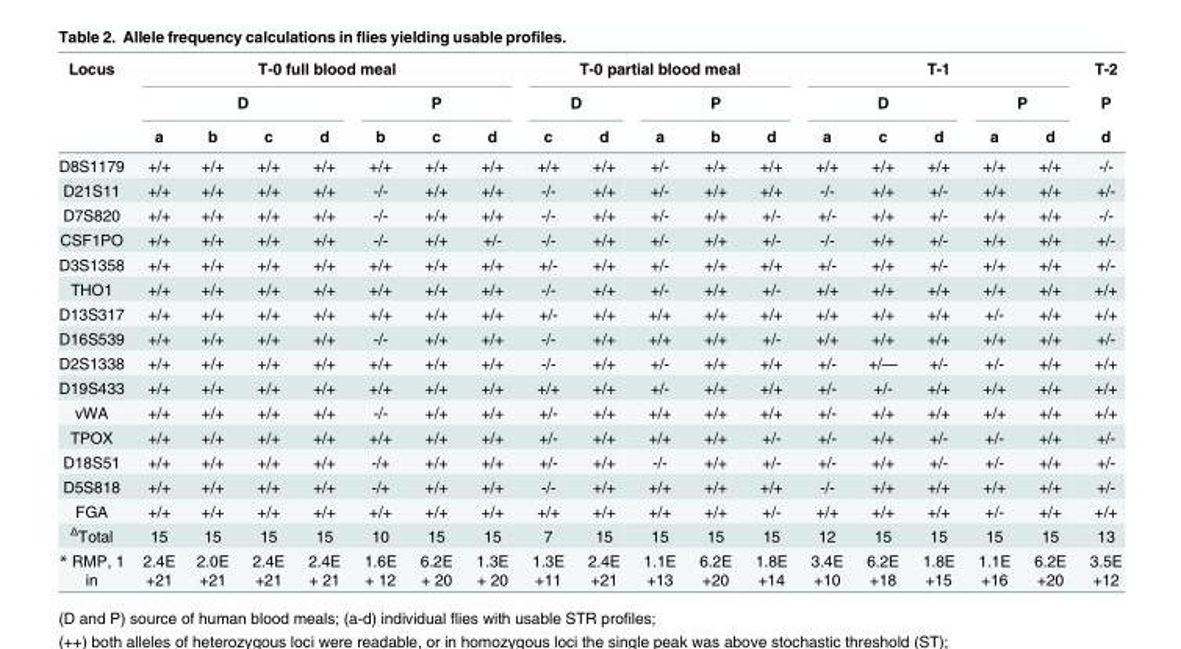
<table><thead><tr><td rowspan="3">Locus</td><td colspan="7">T-0 full blood meal</td><td colspan="5">T-0 partial blood meal</td><td colspan="5">T-1</td><td rowspan="3">T-2 P d</td></tr><tr><td colspan="4">D</td><td colspan="3">P</td><td colspan="2">D</td><td colspan="3">P</td><td colspan="3">D</td><td colspan="2">P</td></tr><tr><td>a</td><td>b</td><td>c</td><td>d</td><td>b</td><td>c</td><td>d</td><td>c</td><td>d</td><td>a</td><td>b</td><td>d</td><td>a</td><td>c</td><td>d</td><td>a</td><td>d</td></tr></thead><tbody><tr><td>D8S1179</td><td>+/+</td><td>+/+</td><td>+/+</td><td>+/+</td><td>+/+</td><td>+/+</td><td>+/+</td><td>+/+</td><td>+/+</td><td>+/-</td><td>+/+</td><td>+/+</td><td>+/+</td><td>+/+</td><td>+/+</td><td>+/+</td><td>+/+</td><td>-/-</td></tr><tr><td>D21S11</td><td>+/+</td><td>+/+</td><td>+/+</td><td>+/+</td><td>-/-</td><td>+/+</td><td>+/+</td><td>-/-</td><td>+/+</td><td>+/-</td><td>+/+</td><td>+/+</td><td>-/-</td><td>+/+</td><td>+/-</td><td>+/+</td><td>+/+</td><td>+/-</td></tr><tr><td>D7S820</td><td>+/+</td><td>+/+</td><td>+/+</td><td>+/+</td><td>-/-</td><td>+/+</td><td>+/+</td><td>-/-</td><td>+/+</td><td>+/-</td><td>+/+</td><td>+/-</td><td>+/-</td><td>+/+</td><td>+/-</td><td>+/+</td><td>+/+</td><td>-/-</td></tr><tr><td>CSF1PO</td><td>+/+</td><td>+/+</td><td>+/+</td><td>+/+</td><td>-/-</td><td>+/+</td><td>+/-</td><td>-/-</td><td>+/+</td><td>+/-</td><td>+/+</td><td>+/-</td><td>-/-</td><td>+/+</td><td>+/-</td><td>+/+</td><td>+/+</td><td>+/-</td></tr><tr><td>D3S1358</td><td>+/+</td><td>+/+</td><td>+/+</td><td>+/+</td><td>+/+</td><td>+/+</td><td>+/+</td><td>+/-</td><td>+/+</td><td>+/-</td><td>+/+</td><td>+/+</td><td>+/-</td><td>+/+</td><td>+/-</td><td>+/+</td><td>+/+</td><td>+/-</td></tr><tr><td>THO1</td><td>+/+</td><td>+/+</td><td>+/+</td><td>+/+</td><td>+/+</td><td>+/+</td><td>+/+</td><td>-/-</td><td>+/+</td><td>+/-</td><td>+/+</td><td>+/-</td><td>+/+</td><td>+/+</td><td>+/+</td><td>+/+</td><td>+/+</td><td>+/+</td></tr><tr><td>D13S317</td><td>+/+</td><td>+/+</td><td>+/+</td><td>+/+</td><td>+/+</td><td>+/+</td><td>+/+</td><td>+/-</td><td>+/+</td><td>+/+</td><td>+/+</td><td>+/+</td><td>+/+</td><td>+/+</td><td>+/+</td><td>+/-</td><td>+/+</td><td>+/+</td></tr><tr><td>D16S539</td><td>+/+</td><td>+/+</td><td>+/+</td><td>+/+</td><td>-/-</td><td>+/+</td><td>+/+</td><td>-/-</td><td>+/+</td><td>+/+</td><td>+/+</td><td>+/-</td><td>+/+</td><td>+/+</td><td>+/+</td><td>+/+</td><td>+/+</td><td>+/-</td></tr><tr><td>D2S1338</td><td>+/+</td><td>+/+</td><td>+/+</td><td>+/+</td><td>+/+</td><td>+/+</td><td>+/+</td><td>-/-</td><td>+/+</td><td>+/-</td><td>+/+</td><td>+/+</td><td>+/-</td><td>+/—</td><td>+/-</td><td>+/-</td><td>+/+</td><td>+/+</td></tr><tr><td>D19S433</td><td>+/+</td><td>+/+</td><td>+/+</td><td>+/+</td><td>+/+</td><td>+/+</td><td>+/+</td><td>+/+</td><td>+/+</td><td>+/-</td><td>+/+</td><td>+/+</td><td>+/-</td><td>+/-</td><td>+/+</td><td>+/+</td><td>+/+</td><td>+/+</td></tr><tr><td>vWA</td><td>+/+</td><td>+/+</td><td>+/+</td><td>+/+</td><td>-/-</td><td>+/+</td><td>+/+</td><td>+/-</td><td>+/+</td><td>+/+</td><td>+/+</td><td>+/+</td><td>+/-</td><td>+/+</td><td>+/+</td><td>+/+</td><td>+/+</td><td>+/+</td></tr><tr><td>TPOX</td><td>+/+</td><td>+/+</td><td>+/+</td><td>+/+</td><td>+/+</td><td>+/+</td><td>+/+</td><td>+/-</td><td>+/+</td><td>+/+</td><td>+/+</td><td>+/-</td><td>+/-</td><td>+/+</td><td>+/-</td><td>+/-</td><td>+/+</td><td>+/-</td></tr><tr><td>D18S51</td><td>+/+</td><td>+/+</td><td>+/+</td><td>+/+</td><td>-/+</td><td>+/+</td><td>+/+</td><td>+/-</td><td>+/+</td><td>-/-</td><td>+/+</td><td>+/-</td><td>+/-</td><td>+/+</td><td>+/-</td><td>+/-</td><td>+/+</td><td>+/-</td></tr><tr><td>D5S818</td><td>+/+</td><td>+/+</td><td>+/+</td><td>+/+</td><td>-/+</td><td>+/+</td><td>+/+</td><td>-/-</td><td>+/+</td><td>+/+</td><td>+/+</td><td>+/+</td><td>-/-</td><td>+/+</td><td>+/+</td><td>+/+</td><td>+/+</td><td>+/-</td></tr><tr><td>FGA</td><td>+/+</td><td>+/+</td><td>+/+</td><td>+/+</td><td>+/+</td><td>+/+</td><td>+/+</td><td>+/+</td><td>+/+</td><td>+/+</td><td>+/+</td><td>+/-</td><td>+/+</td><td>+/+</td><td>+/+</td><td>+/-</td><td>+/+</td><td>+/+</td></tr><tr><td><sup>Δ</sup>Total</td><td>15</td><td>15</td><td>15</td><td>15</td><td>10</td><td>15</td><td>15</td><td>7</td><td>15</td><td>15</td><td>15</td><td>15</td><td>12</td><td>15</td><td>15</td><td>15</td><td>15</td><td>13</td></tr><tr><td>* RMP, 1 in</td><td>2.4E +21</td><td>2.0E +21</td><td>2.4E +21</td><td>2.4E + 21</td><td>1.6E + 12</td><td>6.2E + 20</td><td>1.3E + 20</td><td>1.3E +11</td><td>2.4E +21</td><td>1.1E +13</td><td>6.2E +20</td><td>1.8E +14</td><td>3.4E +10</td><td>6.2E +18</td><td>1.8E +15</td><td>1.1E +16</td><td>6.2E +20</td><td>3.5E +12</td></tr></tbody></table>